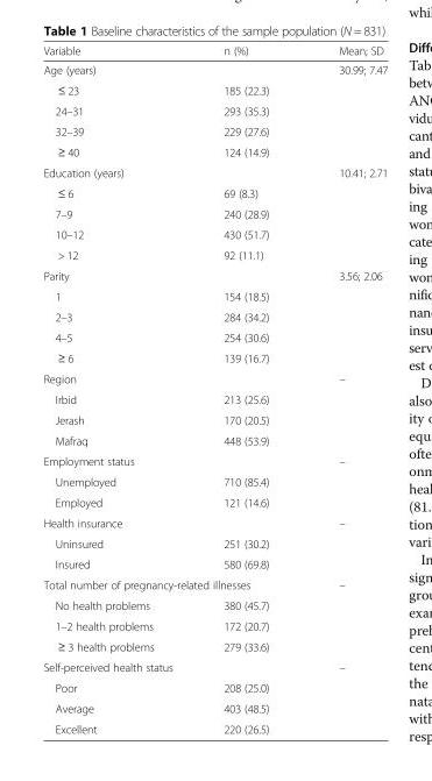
<table><thead><tr><td>Variable</td><td>n (%)</td><td>Mean; SD</td></tr></thead><tbody><tr><td colspan="2">Age (years)</td><td rowspan="5">30.99; 7.47</td></tr><tr><td>≤ 23</td><td>185 (22.3)</td></tr><tr><td>24–31</td><td>293 (35.3)</td></tr><tr><td>32–39</td><td>229 (27.6)</td></tr><tr><td>≥ 40</td><td>124 (14.9)</td></tr><tr><td colspan="2">Education (years)</td><td rowspan="5">10.41; 2.71</td></tr><tr><td>≤ 6</td><td>69 (8.3)</td></tr><tr><td>7–9</td><td>240 (28.9)</td></tr><tr><td>10–12</td><td>430 (51.7)</td></tr><tr><td>&gt; 12</td><td>92 (11.1)</td></tr><tr><td colspan="2">Parity</td><td rowspan="5">3.56; 2.06</td></tr><tr><td>1</td><td>154 (18.5)</td></tr><tr><td>2–3</td><td>284 (34.2)</td></tr><tr><td>4–5</td><td>254 (30.6)</td></tr><tr><td>≥ 6</td><td>139 (16.7)</td></tr><tr><td colspan="2">Region</td><td rowspan="4">–</td></tr><tr><td>Irbid</td><td>213 (25.6)</td></tr><tr><td>Jerash</td><td>170 (20.5)</td></tr><tr><td>Mafraq</td><td>448 (53.9)</td></tr><tr><td colspan="2">Employment status</td><td rowspan="3">–</td></tr><tr><td>Unemployed</td><td>710 (85.4)</td></tr><tr><td>Employed</td><td>121 (14.6)</td></tr><tr><td colspan="2">Health insurance</td><td rowspan="3">–</td></tr><tr><td>Uninsured</td><td>251 (30.2)</td></tr><tr><td>Insured</td><td>580 (69.8)</td></tr><tr><td colspan="2">Total number of pregnancy-related illnesses</td><td rowspan="4">–</td></tr><tr><td>No health problems</td><td>380 (45.7)</td></tr><tr><td>1–2 health problems</td><td>172 (20.7)</td></tr><tr><td>≥ 3 health problems</td><td>279 (33.6)</td></tr><tr><td colspan="2">Self-perceived health status</td><td rowspan="4">–</td></tr><tr><td>Poor</td><td>208 (25.0)</td></tr><tr><td>Average</td><td>403 (48.5)</td></tr><tr><td>Excellent</td><td>220 (26.5)</td></tr></tbody></table>